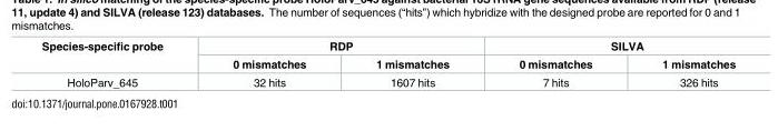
<table><thead><tr><td rowspan="2">Species-specific probe</td><td colspan="2">RDP</td><td colspan="2">SILVA</td></tr><tr><td>0 mismatches</td><td>1 mismatches</td><td>0 mismatches</td><td>1 mismatches</td></tr></thead><tbody><tr><td>HoloParv_645</td><td>32 hits</td><td>1607 hits</td><td>7 hits</td><td>326 hits</td></tr></tbody></table>